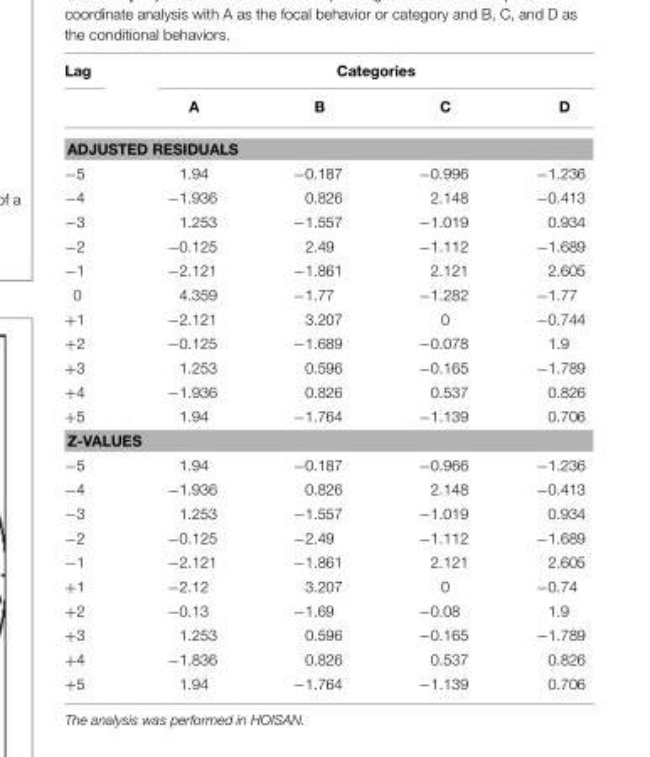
<table><thead><tr><td rowspan="2">Lag</td><td colspan="4">Categories</td></tr><tr><td>A</td><td>B</td><td>C</td><td>D</td></tr></thead><tbody><tr><td colspan="5">ADJUSTED RESIDUALS</td></tr><tr><td>−5</td><td>1.94</td><td>−0.187</td><td>−0.996</td><td>−1.236</td></tr><tr><td>−4</td><td>−1.936</td><td>0.826</td><td>2.148</td><td>−0.413</td></tr><tr><td>−3</td><td>1.253</td><td>−1.557</td><td>−1.019</td><td>0.934</td></tr><tr><td>−2</td><td>−0.125</td><td>2.49</td><td>−1.112</td><td>−1.689</td></tr><tr><td>−1</td><td>−2.121</td><td>−1.861</td><td>2.121</td><td>2.605</td></tr><tr><td>0</td><td>4.359</td><td>−1.77</td><td>−1.282</td><td>−1.77</td></tr><tr><td>+1</td><td>−2.121</td><td>3.207</td><td>0</td><td>−0.744</td></tr><tr><td>+2</td><td>−0.125</td><td>−1.689</td><td>−0.078</td><td>1.9</td></tr><tr><td>+3</td><td>1.253</td><td>0.596</td><td>−0.165</td><td>−1.789</td></tr><tr><td>+4</td><td>−1.936</td><td>0.826</td><td>0.537</td><td>0.826</td></tr><tr><td>+5</td><td>1.94</td><td>−1.764</td><td>−1.139</td><td>0.706</td></tr><tr><td colspan="5">Z-VALUES</td></tr><tr><td>−5</td><td>1.94</td><td>−0.187</td><td>−0.966</td><td>−1.236</td></tr><tr><td>−4</td><td>−1.936</td><td>0.826</td><td>2.148</td><td>−0.413</td></tr><tr><td>−3</td><td>1.253</td><td>−1.557</td><td>−1.019</td><td>0.934</td></tr><tr><td>−2</td><td>−0.125</td><td>−2.49</td><td>−1.112</td><td>−1.689</td></tr><tr><td>−1</td><td>−2.121</td><td>−1.861</td><td>2.121</td><td>2.605</td></tr><tr><td>+1</td><td>−2.12</td><td>3.207</td><td>0</td><td>−0.74</td></tr><tr><td>+2</td><td>−0.13</td><td>−1.69</td><td>−0.08</td><td>1.9</td></tr><tr><td>+3</td><td>1.253</td><td>0.596</td><td>−0.165</td><td>−1.789</td></tr><tr><td>+4</td><td>−1.836</td><td>0.826</td><td>0.537</td><td>0.826</td></tr><tr><td>+5</td><td>1.94</td><td>−1.764</td><td>−1.139</td><td>0.706</td></tr></tbody></table>